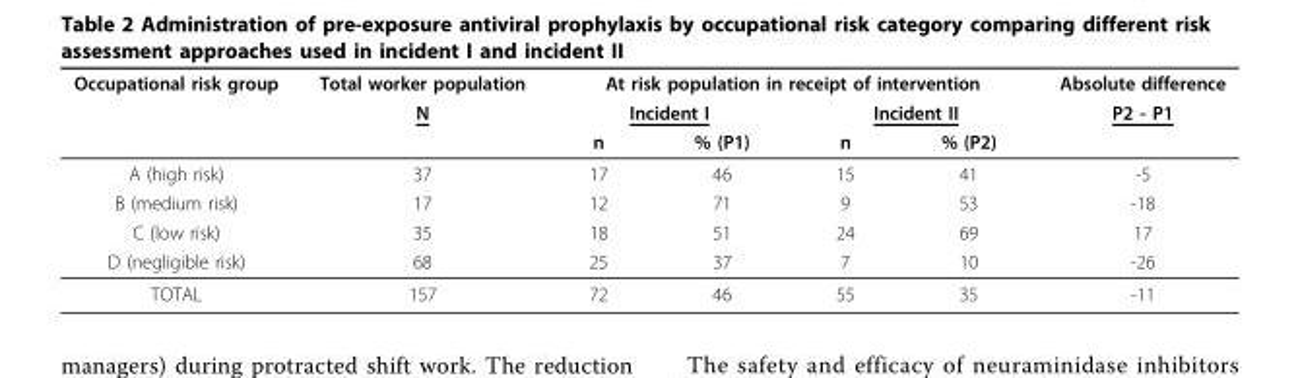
<table><thead><tr><td rowspan="3">Occupational risk group</td><td rowspan="3">Total worker population N</td><td colspan="4">At risk population in receipt of intervention</td><td rowspan="3">Absolute difference P2 - P1</td></tr><tr><td colspan="2">Incident I</td><td colspan="2">Incident II</td></tr><tr><td>n</td><td>% (P1)</td><td>n</td><td>% (P2)</td></tr></thead><tbody><tr><td>A (high risk)</td><td>37</td><td>17</td><td>46</td><td>15</td><td>41</td><td>-5</td></tr><tr><td>B (medium risk)</td><td>17</td><td>12</td><td>71</td><td>9</td><td>53</td><td>-18</td></tr><tr><td>C (low risk)</td><td>35</td><td>18</td><td>51</td><td>24</td><td>69</td><td>17</td></tr><tr><td>D (negligible risk)</td><td>68</td><td>25</td><td>37</td><td>7</td><td>10</td><td>-26</td></tr><tr><td>TOTAL</td><td>157</td><td>72</td><td>46</td><td>55</td><td>35</td><td>-11</td></tr></tbody></table>